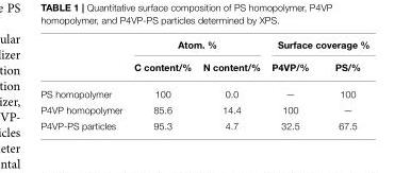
<table><thead><tr><td rowspan="2"></td><td colspan="2">Atom. %</td><td colspan="2">Surface coverage %</td></tr><tr><td>C content/%</td><td>N content/%</td><td>P4VP/%</td><td>PS/%</td></tr></thead><tbody><tr><td>PS homopolymer</td><td>100</td><td>0.0</td><td>—</td><td>100</td></tr><tr><td>P4VP homopolymer</td><td>85.6</td><td>14.4</td><td>100</td><td>—</td></tr><tr><td>P4VP-PS particles</td><td>95.3</td><td>4.7</td><td>32.5</td><td>67.5</td></tr></tbody></table>